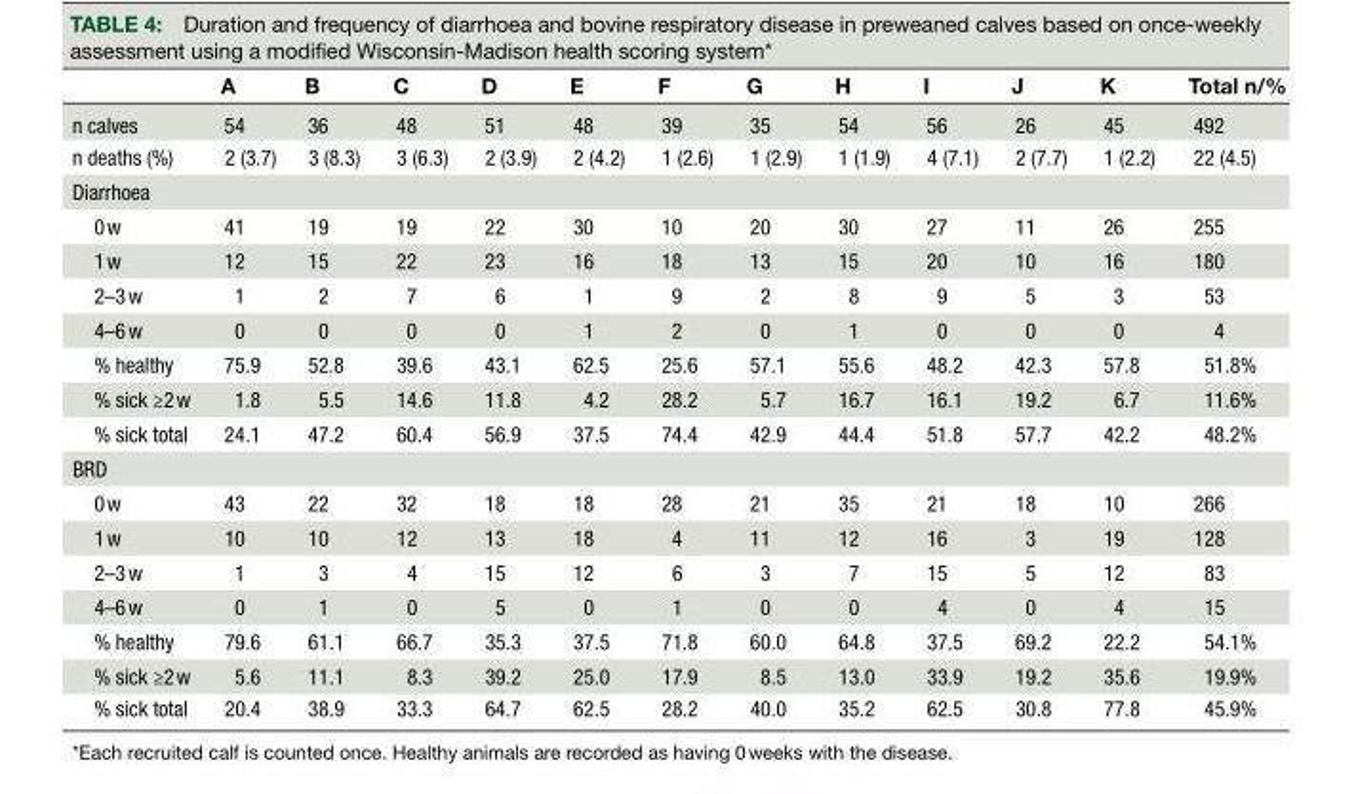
<table><thead><tr><td></td><td>A</td><td>B</td><td>C</td><td>D</td><td>E</td><td>F</td><td>G</td><td>H</td><td>I</td><td>J</td><td>K</td><td>Total n/%</td></tr></thead><tbody><tr><td>n calves</td><td>54</td><td>36</td><td>48</td><td>51</td><td>48</td><td>39</td><td>35</td><td>54</td><td>56</td><td>26</td><td>45</td><td>492</td></tr><tr><td>n deaths (%)</td><td>2 (3.7)</td><td>3 (8.3)</td><td>3 (6.3)</td><td>2 (3.9)</td><td>2 (4.2)</td><td>1 (2.6)</td><td>1 (2.9)</td><td>1 (1.9)</td><td>4 (7.1)</td><td>2 (7.7)</td><td>1 (2.2)</td><td>22 (4.5)</td></tr><tr><td colspan="13">Diarrhoea</td></tr><tr><td>0 w</td><td>41</td><td>19</td><td>19</td><td>22</td><td>30</td><td>10</td><td>20</td><td>30</td><td>27</td><td>11</td><td>26</td><td>255</td></tr><tr><td>1 w</td><td>12</td><td>15</td><td>22</td><td>23</td><td>16</td><td>18</td><td>13</td><td>15</td><td>20</td><td>10</td><td>16</td><td>180</td></tr><tr><td>2–3 w</td><td>1</td><td>2</td><td>7</td><td>6</td><td>1</td><td>9</td><td>2</td><td>8</td><td>9</td><td>5</td><td>3</td><td>53</td></tr><tr><td>4–6 w</td><td>0</td><td>0</td><td>0</td><td>0</td><td>1</td><td>2</td><td>0</td><td>1</td><td>0</td><td>0</td><td>0</td><td>4</td></tr><tr><td>% healthy</td><td>75.9</td><td>52.8</td><td>39.6</td><td>43.1</td><td>62.5</td><td>25.6</td><td>57.1</td><td>55.6</td><td>48.2</td><td>42.3</td><td>57.8</td><td>51.8%</td></tr><tr><td>% sick ≥2 w</td><td>1.8</td><td>5.5</td><td>14.6</td><td>11.8</td><td>4.2</td><td>28.2</td><td>5.7</td><td>16.7</td><td>16.1</td><td>19.2</td><td>6.7</td><td>11.6%</td></tr><tr><td>% sick total</td><td>24.1</td><td>47.2</td><td>60.4</td><td>56.9</td><td>37.5</td><td>74.4</td><td>42.9</td><td>44.4</td><td>51.8</td><td>57.7</td><td>42.2</td><td>48.2%</td></tr><tr><td colspan="13">BRD</td></tr><tr><td>0 w</td><td>43</td><td>22</td><td>32</td><td>18</td><td>18</td><td>28</td><td>21</td><td>35</td><td>21</td><td>18</td><td>10</td><td>266</td></tr><tr><td>1 w</td><td>10</td><td>10</td><td>12</td><td>13</td><td>18</td><td>4</td><td>11</td><td>12</td><td>16</td><td>3</td><td>19</td><td>128</td></tr><tr><td>2–3 w</td><td>1</td><td>3</td><td>4</td><td>15</td><td>12</td><td>6</td><td>3</td><td>7</td><td>15</td><td>5</td><td>12</td><td>83</td></tr><tr><td>4–6 w</td><td>0</td><td>1</td><td>0</td><td>5</td><td>0</td><td>1</td><td>0</td><td>0</td><td>4</td><td>0</td><td>4</td><td>15</td></tr><tr><td>% healthy</td><td>79.6</td><td>61.1</td><td>66.7</td><td>35.3</td><td>37.5</td><td>71.8</td><td>60.0</td><td>64.8</td><td>37.5</td><td>69.2</td><td>22.2</td><td>54.1%</td></tr><tr><td>% sick ≥2 w</td><td>5.6</td><td>11.1</td><td>8.3</td><td>39.2</td><td>25.0</td><td>17.9</td><td>8.5</td><td>13.0</td><td>33.9</td><td>19.2</td><td>35.6</td><td>19.9%</td></tr><tr><td>% sick total</td><td>20.4</td><td>38.9</td><td>33.3</td><td>64.7</td><td>62.5</td><td>28.2</td><td>40.0</td><td>35.2</td><td>62.5</td><td>30.8</td><td>77.8</td><td>45.9%</td></tr></tbody></table>